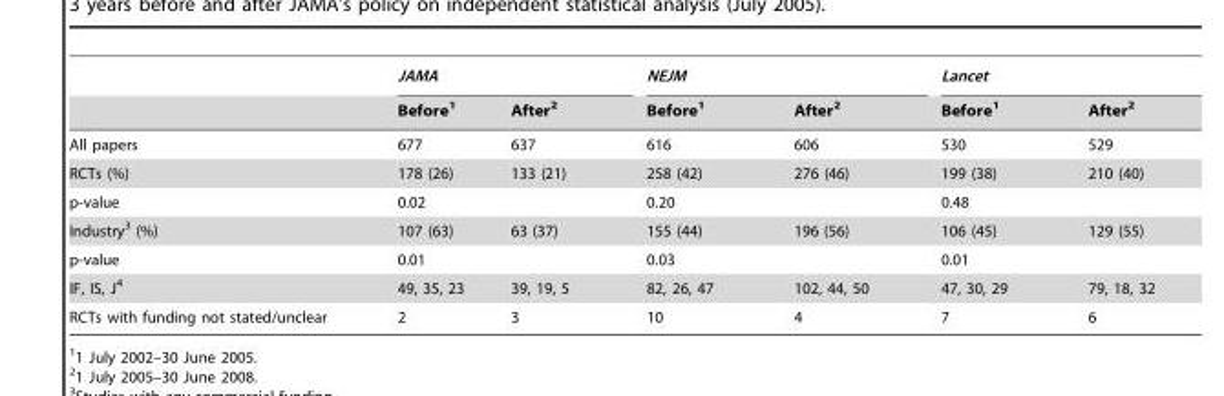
<table><thead><tr><td rowspan="2"></td><td colspan="2">JAMA</td><td colspan="2">NEJM</td><td colspan="2">Lancet</td></tr><tr><td>Before<sup>1</sup></td><td>After<sup>2</sup></td><td>Before<sup>1</sup></td><td>After<sup>2</sup></td><td>Before<sup>1</sup></td><td>After<sup>2</sup></td></tr></thead><tbody><tr><td>All papers</td><td>677</td><td>637</td><td>616</td><td>606</td><td>530</td><td>529</td></tr><tr><td>RCTs (%)</td><td>178 (26)</td><td>133 (21)</td><td>258 (42)</td><td>276 (46)</td><td>199 (38)</td><td>210 (40)</td></tr><tr><td>p-value</td><td colspan="2">0.02</td><td colspan="2">0.20</td><td colspan="2">0.48</td></tr><tr><td>Industry<sup>3</sup> (%)</td><td>107 (63)</td><td>63 (37)</td><td>155 (44)</td><td>196 (56)</td><td>106 (45)</td><td>129 (55)</td></tr><tr><td>p-value</td><td colspan="2">0.01</td><td colspan="2">0.03</td><td colspan="2">0.01</td></tr><tr><td>IF, IS, J<sup>4</sup></td><td>49, 35, 23</td><td>39, 19, 5</td><td>82, 26, 47</td><td>102, 44, 50</td><td>47, 30, 29</td><td>79, 18, 32</td></tr><tr><td>RCTs with funding not stated/unclear</td><td>2</td><td>3</td><td>10</td><td>4</td><td>7</td><td>6</td></tr></tbody></table>